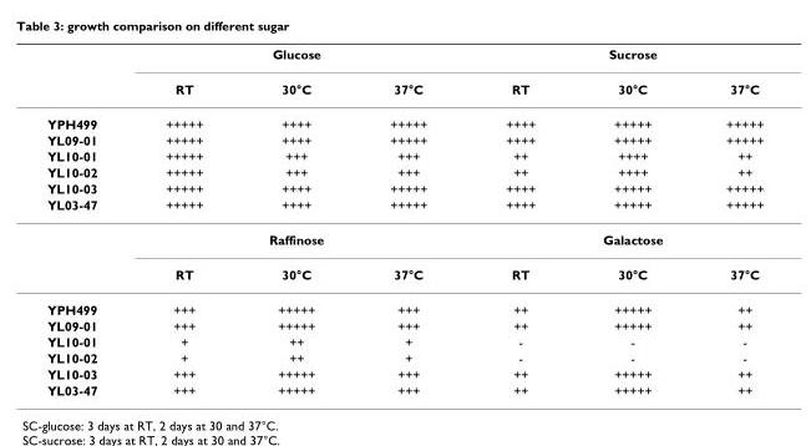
<table><thead><tr><td rowspan="2"></td><td colspan="3">Glucose</td><td colspan="3">Sucrose</td></tr><tr><td>RT</td><td>30°C</td><td>37°C</td><td>RT</td><td>30°C</td><td>37°C</td></tr></thead><tbody><tr><td>YPH499</td><td>+++++</td><td>++++</td><td>+++++</td><td>++++</td><td>+++++</td><td>+++++</td></tr><tr><td>YL09-01</td><td>+++++</td><td>++++</td><td>+++++</td><td>++++</td><td>+++++</td><td>+++++</td></tr><tr><td>YL10-01</td><td>+++++</td><td>+++</td><td>+++</td><td>++</td><td>++++</td><td>++</td></tr><tr><td>YL10-02</td><td>+++++</td><td>+++</td><td>+++</td><td>++</td><td>++++</td><td>++</td></tr><tr><td>YL10-03</td><td>+++++</td><td>++++</td><td>+++++</td><td>++++</td><td>+++++</td><td>+++++</td></tr><tr><td rowspan="3">YL03-47</td><td>+++++</td><td>++++</td><td>+++++</td><td>++++</td><td>+++++</td><td>+++++</td></tr><tr><td colspan="3">Raffinose</td><td colspan="3">Galactose</td></tr><tr><td>RT</td><td>30°C</td><td>37°C</td><td>RT</td><td>30°C</td><td>37°C</td></tr><tr><td>YPH499</td><td>+++</td><td>+++++</td><td>+++</td><td>++</td><td>+++++</td><td>++</td></tr><tr><td>YL09-01</td><td>+++</td><td>+++++</td><td>+++</td><td>++</td><td>+++++</td><td>++</td></tr><tr><td>YL10-01</td><td>+</td><td>++</td><td>+</td><td>-</td><td>-</td><td>-</td></tr><tr><td>YL10-02</td><td>+</td><td>++</td><td>+</td><td>-</td><td>-</td><td>-</td></tr><tr><td>YL10-03</td><td>+++</td><td>+++++</td><td>+++</td><td>++</td><td>+++++</td><td>++</td></tr><tr><td>YL03-47</td><td>+++</td><td>+++++</td><td>+++</td><td>++</td><td>+++++</td><td>++</td></tr></tbody></table>